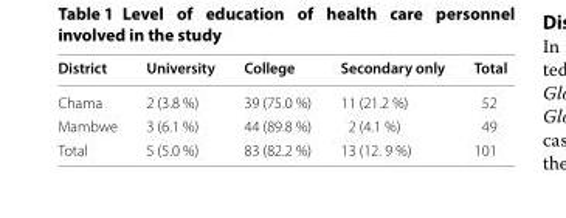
<table><thead><tr><td>District</td><td>University</td><td>College</td><td>Secondary only</td><td>Total</td></tr></thead><tbody><tr><td>Chama</td><td>2 (3.8 %)</td><td>39 (75.0 %)</td><td>11 (21.2 %)</td><td>52</td></tr><tr><td>Mambwe</td><td>3 (6.1 %)</td><td>44 (89.8 %)</td><td>2 (4.1 %)</td><td>49</td></tr><tr><td>Total</td><td>5 (5.0 %)</td><td>83 (82.2 %)</td><td>13 (12. 9 %)</td><td>101</td></tr></tbody></table>